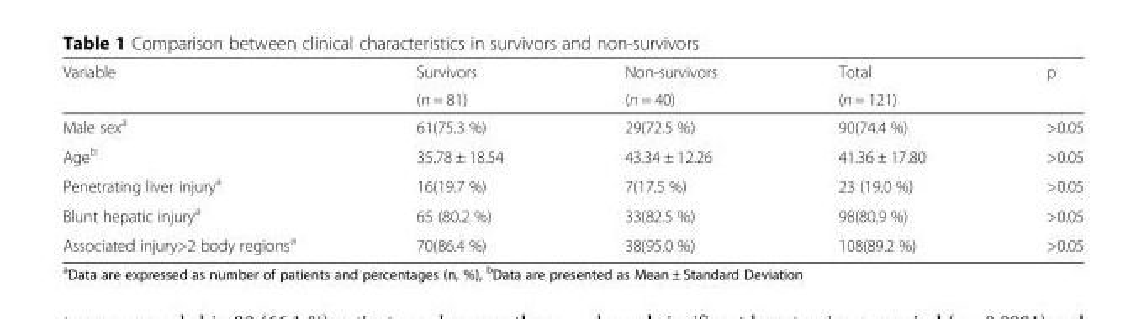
<table><thead><tr><td rowspan="2">Variable</td><td rowspan="2">Survivors (n = 81)</td><td rowspan="2">Non-survivors (n = 40)</td><td rowspan="2">Total (n = 121)</td><td rowspan="2">p</td></tr><tr></tr></thead><tbody><tr><td>Male sex<sup>a</sup></td><td>61(75.3 %)</td><td>29(72.5 %)</td><td>90(74.4 %)</td><td>&gt;0.05</td></tr><tr><td>Age<sup>b</sup></td><td>35.78 ± 18.54</td><td>43.34 ± 12.26</td><td>41.36 ± 17.80</td><td>&gt;0.05</td></tr><tr><td>Penetrating liver injury<sup>a</sup></td><td>16(19.7 %)</td><td>7(17.5 %)</td><td>23 (19.0 %)</td><td>&gt;0.05</td></tr><tr><td>Blunt hepatic injury<sup>a</sup></td><td>65 (80.2 %)</td><td>33(82.5 %)</td><td>98(80.9 %)</td><td>&gt;0.05</td></tr><tr><td>Associated injury&gt;2 body regions<sup>a</sup></td><td>70(86.4 %)</td><td>38(95.0 %)</td><td>108(89.2 %)</td><td>&gt;0.05</td></tr></tbody></table>